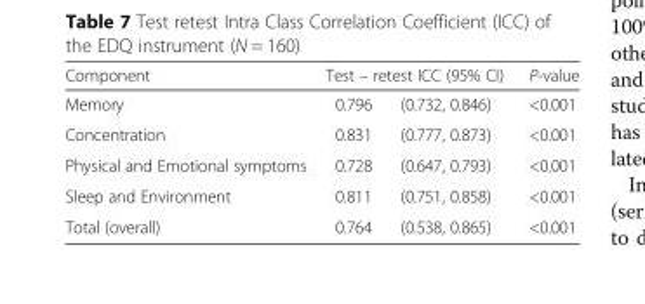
<table><thead><tr><td rowspan="2">Component Memory</td><td colspan="2">Test – retest ICC (95% CI)</td><td rowspan="2">P-value &lt;0.001</td></tr><tr><td>0.796</td><td>(0.732, 0.846)</td></tr></thead><tbody><tr><td>Concentration</td><td>0.831</td><td>(0.777, 0.873)</td><td>&lt;0.001</td></tr><tr><td>Physical and Emotional symptoms</td><td>0.728</td><td>(0.647, 0.793)</td><td>&lt;0.001</td></tr><tr><td>Sleep and Environment</td><td>0.811</td><td>(0.751, 0.858)</td><td>&lt;0.001</td></tr><tr><td>Total (overall)</td><td>0.764</td><td>(0.538, 0.865)</td><td>&lt;0.001</td></tr></tbody></table>